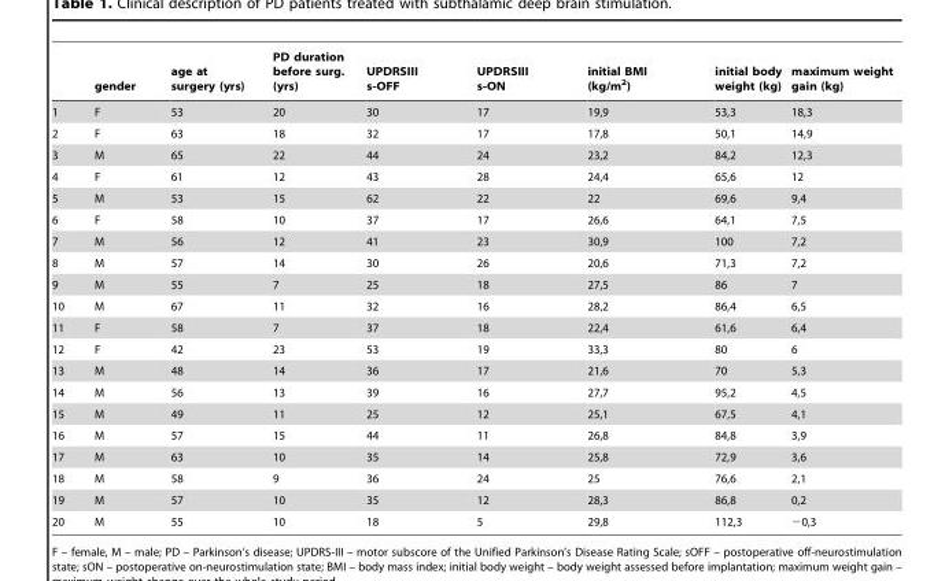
<table><thead><tr><td></td><td>gender</td><td>age at surgery (yrs)</td><td>PD duration before surg. (yrs)</td><td>UPDRSIII s-OFF</td><td>UPDRSIII s-ON</td><td>initial BMI (kg/m<sup>2</sup>)</td><td>initial body weight (kg)</td><td>maximum weight gain (kg)</td></tr></thead><tbody><tr><td>1</td><td>F</td><td>53</td><td>20</td><td>30</td><td>17</td><td>19,9</td><td>53,3</td><td>18,3</td></tr><tr><td>2</td><td>F</td><td>63</td><td>18</td><td>32</td><td>17</td><td>17,8</td><td>50,1</td><td>14,9</td></tr><tr><td>3</td><td>M</td><td>65</td><td>22</td><td>44</td><td>24</td><td>23,2</td><td>84,2</td><td>12,3</td></tr><tr><td>4</td><td>F</td><td>61</td><td>12</td><td>43</td><td>28</td><td>24,4</td><td>65,6</td><td>12</td></tr><tr><td>5</td><td>M</td><td>53</td><td>15</td><td>62</td><td>22</td><td>22</td><td>69,6</td><td>9,4</td></tr><tr><td>6</td><td>F</td><td>58</td><td>10</td><td>37</td><td>17</td><td>26,6</td><td>64,1</td><td>7,5</td></tr><tr><td>7</td><td>M</td><td>56</td><td>12</td><td>41</td><td>23</td><td>30,9</td><td>100</td><td>7,2</td></tr><tr><td>8</td><td>M</td><td>57</td><td>14</td><td>30</td><td>26</td><td>20,6</td><td>71,3</td><td>7,2</td></tr><tr><td>9</td><td>M</td><td>55</td><td>7</td><td>25</td><td>18</td><td>27,5</td><td>86</td><td>7</td></tr><tr><td>10</td><td>M</td><td>67</td><td>11</td><td>32</td><td>16</td><td>28,2</td><td>86,4</td><td>6,5</td></tr><tr><td>11</td><td>F</td><td>58</td><td>7</td><td>37</td><td>18</td><td>22,4</td><td>61,6</td><td>6,4</td></tr><tr><td>12</td><td>F</td><td>42</td><td>23</td><td>53</td><td>19</td><td>33,3</td><td>80</td><td>6</td></tr><tr><td>13</td><td>M</td><td>48</td><td>14</td><td>36</td><td>17</td><td>21,6</td><td>70</td><td>5,3</td></tr><tr><td>14</td><td>M</td><td>56</td><td>13</td><td>39</td><td>16</td><td>27,7</td><td>95,2</td><td>4,5</td></tr><tr><td>15</td><td>M</td><td>49</td><td>11</td><td>25</td><td>12</td><td>25,1</td><td>67,5</td><td>4,1</td></tr><tr><td>16</td><td>M</td><td>57</td><td>15</td><td>44</td><td>11</td><td>26,8</td><td>84,8</td><td>3,9</td></tr><tr><td>17</td><td>M</td><td>63</td><td>10</td><td>35</td><td>14</td><td>25,8</td><td>72,9</td><td>3,6</td></tr><tr><td>18</td><td>M</td><td>58</td><td>9</td><td>36</td><td>24</td><td>25</td><td>76,6</td><td>2,1</td></tr><tr><td>19</td><td>M</td><td>57</td><td>10</td><td>35</td><td>12</td><td>28,3</td><td>86,8</td><td>0,2</td></tr><tr><td>20</td><td>M</td><td>55</td><td>10</td><td>18</td><td>5</td><td>29,8</td><td>112,3</td><td>−0,3</td></tr></tbody></table>